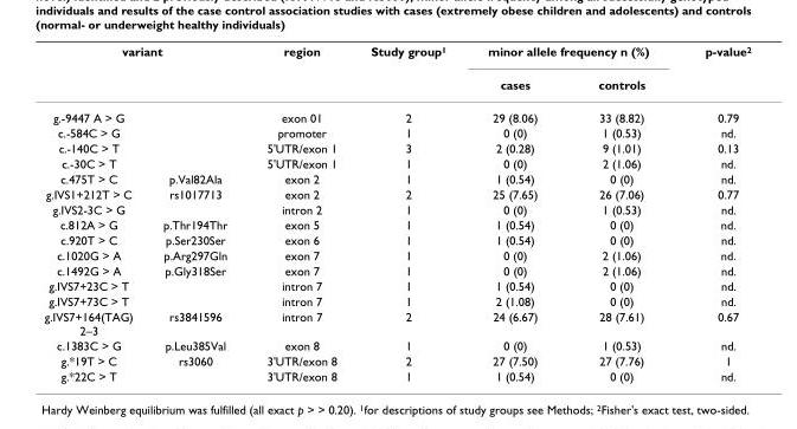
<table><thead><tr><td colspan="2">variant</td><td rowspan="2">region</td><td rowspan="2">Study group<sup>1</sup></td><td colspan="2">minor allele frequency n (%)</td><td rowspan="2">p-value<sup>2</sup></td></tr><tr><td></td><td></td><td>cases</td><td>controls</td></tr></thead><tbody><tr><td>g.-9447 A &gt; G</td><td></td><td>exon 01</td><td>2</td><td>29 (8.06)</td><td>33 (8.82)</td><td>0.79</td></tr><tr><td>c.-584C &gt; G</td><td></td><td>promoter</td><td>1</td><td>0 (0)</td><td>1 (0.53)</td><td>nd.</td></tr><tr><td>c.-140C &gt; T</td><td></td><td>5&#x27;UTR/exon 1</td><td>3</td><td>2 (0.28)</td><td>9 (1.01)</td><td>0.13</td></tr><tr><td>c.-30C &gt; T</td><td></td><td>5&#x27;UTR/exon 1</td><td>1</td><td>0 (0)</td><td>2 (1.06)</td><td>nd.</td></tr><tr><td>c.475T &gt; C</td><td>p.Val82Ala</td><td>exon 2</td><td>1</td><td>1 (0.54)</td><td>0 (0)</td><td>nd.</td></tr><tr><td>g.IVS1+212T &gt; C</td><td>rs1017713</td><td>exon 2</td><td>2</td><td>25 (7.65)</td><td>26 (7.06)</td><td>0.77</td></tr><tr><td>g.IVS2-3C &gt; G</td><td></td><td>intron 2</td><td>1</td><td>0 (0)</td><td>1 (0.53)</td><td>nd.</td></tr><tr><td>c.812A &gt; G</td><td>p.Thr194Thr</td><td>exon 5</td><td>1</td><td>1 (0.54)</td><td>0 (0)</td><td>nd.</td></tr><tr><td>c.920T &gt; C</td><td>p.Ser230Ser</td><td>exon 6</td><td>1</td><td>1 (0.54)</td><td>0 (0)</td><td>nd.</td></tr><tr><td>c.1020G &gt; A</td><td>p.Arg297Gln</td><td>exon 7</td><td>1</td><td>0 (0)</td><td>2 (1.06)</td><td>nd.</td></tr><tr><td>c.1492G &gt; A</td><td>p.Gly318Ser</td><td>exon 7</td><td>1</td><td>0 (0)</td><td>2 (1.06)</td><td>nd.</td></tr><tr><td>g.IVS7+23C &gt; T</td><td></td><td>intron 7</td><td>1</td><td>1 (0.54)</td><td>0 (0)</td><td>nd.</td></tr><tr><td>g.IVS7+73C &gt; T</td><td></td><td>intron 7</td><td>1</td><td>2 (1.08)</td><td>0 (0)</td><td>nd.</td></tr><tr><td>g.IVS7+164(TAG) 2–3</td><td>rs3841596</td><td>intron 7</td><td>2</td><td>24 (6.67)</td><td>28 (7.61)</td><td>0.67</td></tr><tr><td>c.1383C &gt; G</td><td>p.Leu385Val</td><td>exon 8</td><td>1</td><td>0 (0)</td><td>1 (0.53)</td><td>nd.</td></tr><tr><td>g.*19T &gt; C</td><td>rs3060</td><td>3&#x27;UTR/exon 8</td><td>2</td><td>27 (7.50)</td><td>27 (7.76)</td><td>1</td></tr><tr><td>g.*22C &gt; T</td><td></td><td>3&#x27;UTR/exon 8</td><td>1</td><td>1 (0.54)</td><td>0 (0)</td><td>nd.</td></tr></tbody></table>